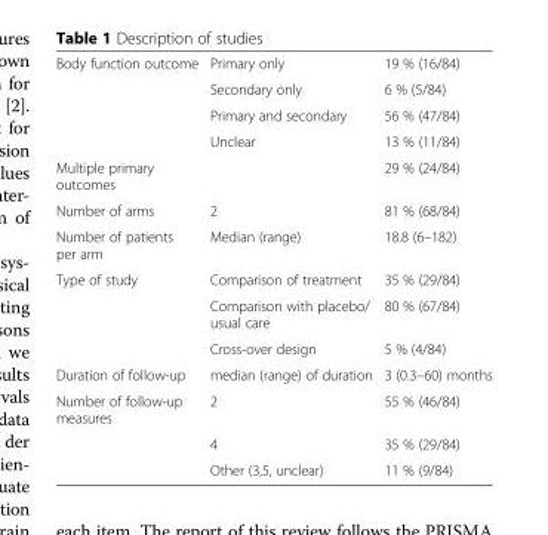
<table><tbody><tr><td rowspan="4">Body function outcome</td><td>Primary only</td><td>19 % (16/84)</td></tr><tr><td>Secondary only</td><td>6 % (5/84)</td></tr><tr><td>Primary and secondary</td><td>56 % (47/84)</td></tr><tr><td>Unclear</td><td>13 % (11/84)</td></tr><tr><td>Multiple primary outcomes</td><td></td><td>29 % (24/84)</td></tr><tr><td>Number of arms</td><td>2</td><td>81 % (68/84)</td></tr><tr><td>Number of patients per arm</td><td>Median (range)</td><td>18.8 (6–182)</td></tr><tr><td rowspan="3">Type of study</td><td>Comparison of treatment</td><td>35 % (29/84)</td></tr><tr><td>Comparison with placebo/ usual care</td><td>80 % (67/84)</td></tr><tr><td>Cross-over design</td><td>5 % (4/84)</td></tr><tr><td>Duration of follow-up</td><td>median (range) of duration</td><td>3 (0.3–60) months</td></tr><tr><td rowspan="3">Number of follow-up measures</td><td>2</td><td>55 % (46/84)</td></tr><tr><td>4</td><td>35 % (29/84)</td></tr><tr><td>Other (3,5, unclear)</td><td>11 % (9/84)</td></tr></tbody></table>